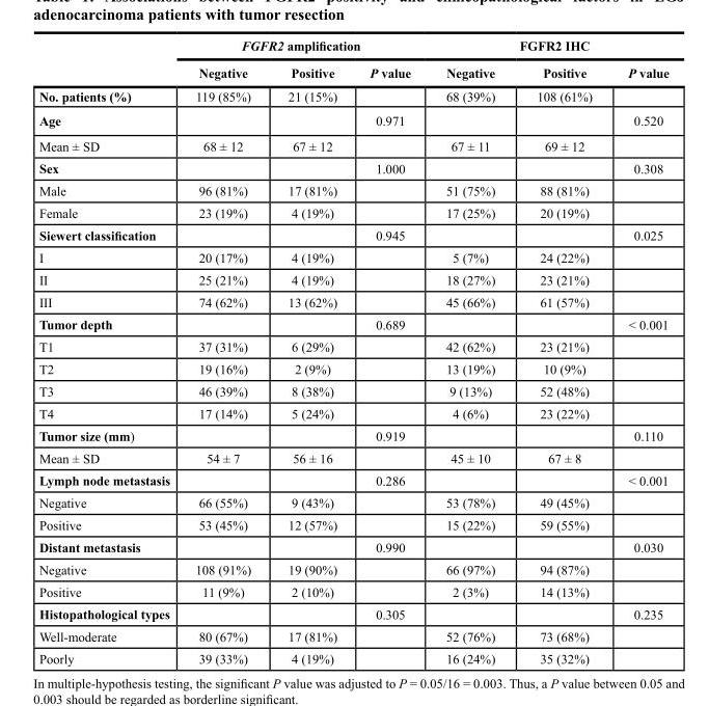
<table><thead><tr><td rowspan="2"></td><td colspan="3">FGFR2 amplification</td><td colspan="3">FGFR2 IHC</td></tr><tr><td>Negative</td><td>Positive</td><td>P value</td><td>Negative</td><td>Positive</td><td>P value</td></tr></thead><tbody><tr><td>No. patients (%)</td><td>119 (85%)</td><td>21 (15%)</td><td></td><td>68 (39%)</td><td>108 (61%)</td><td></td></tr><tr><td>Age</td><td></td><td></td><td>0.971</td><td></td><td></td><td>0.520</td></tr><tr><td>Mean ± SD</td><td>68 ± 12</td><td>67 ± 12</td><td></td><td>67 ± 11</td><td>69 ± 12</td><td></td></tr><tr><td>Sex</td><td></td><td></td><td>1.000</td><td></td><td></td><td>0.308</td></tr><tr><td>Male</td><td>96 (81%)</td><td>17 (81%)</td><td></td><td>51 (75%)</td><td>88 (81%)</td><td></td></tr><tr><td>Female</td><td>23 (19%)</td><td>4 (19%)</td><td></td><td>17 (25%)</td><td>20 (19%)</td><td></td></tr><tr><td>Siewert classification</td><td></td><td></td><td>0.945</td><td></td><td></td><td>0.025</td></tr><tr><td>I</td><td>20 (17%)</td><td>4 (19%)</td><td></td><td>5 (7%)</td><td>24 (22%)</td><td></td></tr><tr><td>II</td><td>25 (21%)</td><td>4 (19%)</td><td></td><td>18 (27%)</td><td>23 (21%)</td><td></td></tr><tr><td>III</td><td>74 (62%)</td><td>13 (62%)</td><td></td><td>45 (66%)</td><td>61 (57%)</td><td></td></tr><tr><td>Tumor depth</td><td></td><td></td><td>0.689</td><td></td><td></td><td>&lt; 0.001</td></tr><tr><td>T1</td><td>37 (31%)</td><td>6 (29%)</td><td></td><td>42 (62%)</td><td>23 (21%)</td><td></td></tr><tr><td>T2</td><td>19 (16%)</td><td>2 (9%)</td><td></td><td>13 (19%)</td><td>10 (9%)</td><td></td></tr><tr><td>T3</td><td>46 (39%)</td><td>8 (38%)</td><td></td><td>9 (13%)</td><td>52 (48%)</td><td></td></tr><tr><td>T4</td><td>17 (14%)</td><td>5 (24%)</td><td></td><td>4 (6%)</td><td>23 (22%)</td><td></td></tr><tr><td>Tumor size (mm)</td><td></td><td></td><td>0.919</td><td></td><td></td><td>0.110</td></tr><tr><td>Mean ± SD</td><td>54 ± 7</td><td>56 ± 16</td><td></td><td>45 ± 10</td><td>67 ± 8</td><td></td></tr><tr><td>Lymph node metastasis</td><td></td><td></td><td>0.286</td><td></td><td></td><td>&lt; 0.001</td></tr><tr><td>Negative</td><td>66 (55%)</td><td>9 (43%)</td><td></td><td>53 (78%)</td><td>49 (45%)</td><td></td></tr><tr><td>Positive</td><td>53 (45%)</td><td>12 (57%)</td><td></td><td>15 (22%)</td><td>59 (55%)</td><td></td></tr><tr><td>Distant metastasis</td><td></td><td></td><td>0.990</td><td></td><td></td><td>0.030</td></tr><tr><td>Negative</td><td>108 (91%)</td><td>19 (90%)</td><td></td><td>66 (97%)</td><td>94 (87%)</td><td></td></tr><tr><td>Positive</td><td>11 (9%)</td><td>2 (10%)</td><td></td><td>2 (3%)</td><td>14 (13%)</td><td></td></tr><tr><td>Histopathological types</td><td></td><td></td><td>0.305</td><td></td><td></td><td>0.235</td></tr><tr><td>Well-moderate</td><td>80 (67%)</td><td>17 (81%)</td><td></td><td>52 (76%)</td><td>73 (68%)</td><td></td></tr><tr><td>Poorly</td><td>39 (33%)</td><td>4 (19%)</td><td></td><td>16 (24%)</td><td>35 (32%)</td><td></td></tr></tbody></table>